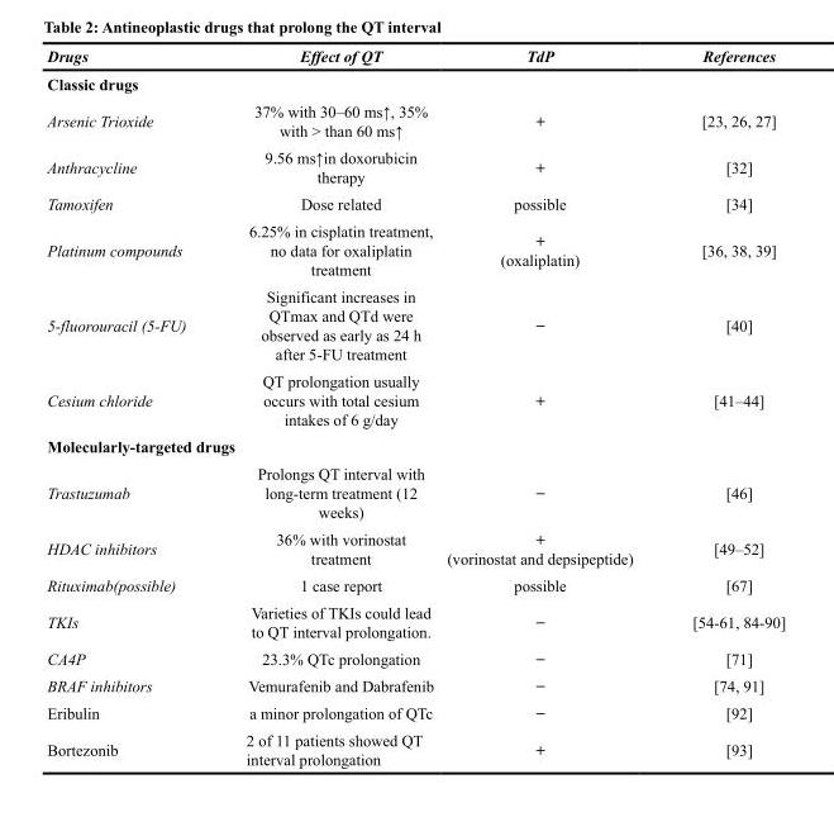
<table><thead><tr><td>Drugs</td><td>Effect of QT</td><td>TdP</td><td>References</td></tr></thead><tbody><tr><td colspan="4">Classic drugs</td></tr><tr><td>Arsenic Trioxide</td><td>37% with 30–60 ms↑, 35% with &gt; than 60 ms↑</td><td>+</td><td>[23, 26, 27]</td></tr><tr><td>Anthracycline</td><td>9.56 ms↑in doxorubicin therapy</td><td>+</td><td>[32]</td></tr><tr><td>Tamoxifen</td><td>Dose related</td><td>possible</td><td>[34]</td></tr><tr><td>Platinum compounds</td><td>6.25% in cisplatin treatment, no data for oxaliplatin treatment</td><td>+ (oxaliplatin)</td><td>[36, 38, 39]</td></tr><tr><td>5-fluorouracil (5-FU)</td><td>Significant increases in QTmax and QTd were observed as early as 24 h after 5-FU treatment</td><td>−</td><td>[40]</td></tr><tr><td>Cesium chloride</td><td>QT prolongation usually occurs with total cesium intakes of 6 g/day</td><td>+</td><td>[41–44]</td></tr><tr><td colspan="4">Molecularly-targeted drugs</td></tr><tr><td>Trastuzumab</td><td>Prolongs QT interval with long-term treatment (12 weeks)</td><td>−</td><td>[46]</td></tr><tr><td>HDAC inhibitors</td><td>36% with vorinostat treatment</td><td>+ (vorinostat and depsipeptide)</td><td>[49–52]</td></tr><tr><td>Rituximab(possible)</td><td>1 case report</td><td>possible</td><td>[67]</td></tr><tr><td>TKIs</td><td>Varieties of TKIs could lead to QT interval prolongation.</td><td>−</td><td>[54-61, 84-90]</td></tr><tr><td>CA4P</td><td>23.3% QTc prolongation</td><td>−</td><td>[71]</td></tr><tr><td>BRAF inhibitors</td><td>Vemurafenib and Dabrafenib</td><td>−</td><td>[74, 91]</td></tr><tr><td>Eribulin</td><td>a minor prolongation of QTc</td><td>−</td><td>[92]</td></tr><tr><td>Bortezonib</td><td>2 of 11 patients showed QT interval prolongation</td><td>+</td><td>[93]</td></tr></tbody></table>